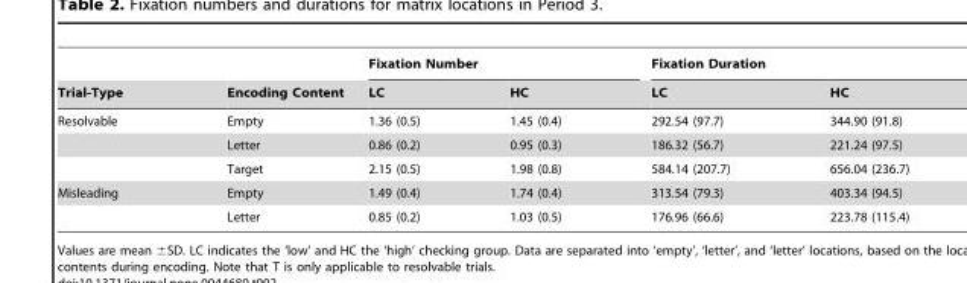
<table><thead><tr><td rowspan="2">Trial-Type</td><td rowspan="2">Encoding Content</td><td colspan="2">Fixation Number</td><td colspan="2">Fixation Duration</td></tr><tr><td>LC</td><td>HC</td><td>LC</td><td>HC</td></tr></thead><tbody><tr><td rowspan="3">Resolvable</td><td>Empty</td><td>1.36 (0.5)</td><td>1.45 (0.4)</td><td>292.54 (97.7)</td><td>344.90 (91.8)</td></tr><tr><td>Letter</td><td>0.86 (0.2)</td><td>0.95 (0.3)</td><td>186.32 (56.7)</td><td>221.24 (97.5)</td></tr><tr><td>Target</td><td>2.15 (0.5)</td><td>1.98 (0.8)</td><td>584.14 (207.7)</td><td>656.04 (236.7)</td></tr><tr><td rowspan="2">Misleading</td><td>Empty</td><td>1.49 (0.4)</td><td>1.74 (0.4)</td><td>313.54 (79.3)</td><td>403.34 (94.5)</td></tr><tr><td>Letter</td><td>0.85 (0.2)</td><td>1.03 (0.5)</td><td>176.96 (66.6)</td><td>223.78 (115.4)</td></tr></tbody></table>